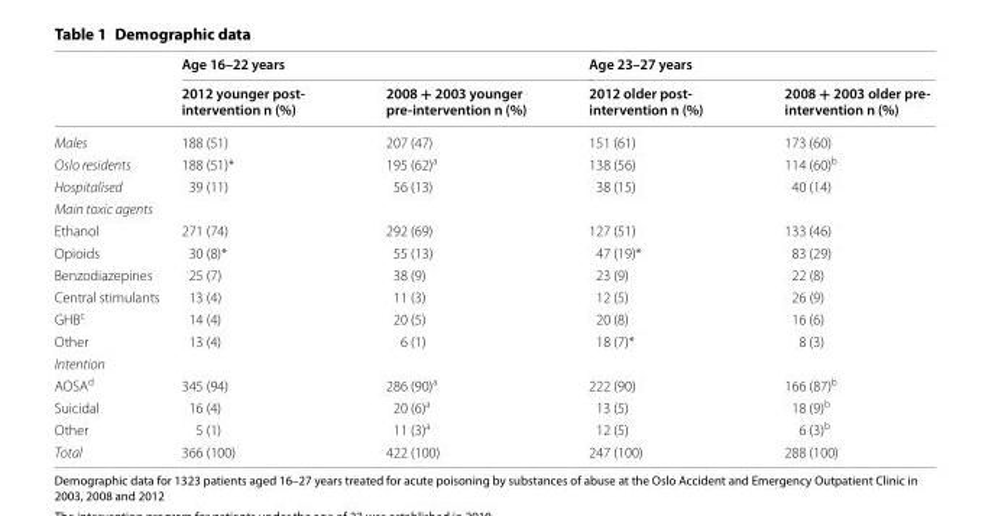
<table><thead><tr><td rowspan="2"></td><td colspan="2">Age 16–22 years</td><td colspan="2">Age 23–27 years</td></tr><tr><td>2012 younger post- intervention n (%)</td><td>2008 + 2003 younger pre-intervention n (%)</td><td>2012 older post- intervention n (%)</td><td>2008 + 2003 older pre- intervention n (%)</td></tr></thead><tbody><tr><td>Males</td><td>188 (51)</td><td>207 (47)</td><td>151 (61)</td><td>173 (60)</td></tr><tr><td>Oslo residents</td><td>188 (51)*</td><td>195 (62)<sup>a</sup></td><td>138 (56)</td><td>114 (60)<sup>b</sup></td></tr><tr><td>Hospitalised</td><td>39 (11)</td><td>56 (13)</td><td>38 (15)</td><td>40 (14)</td></tr><tr><td colspan="5">Main toxic agents</td></tr><tr><td>Ethanol</td><td>271 (74)</td><td>292 (69)</td><td>127 (51)</td><td>133 (46)</td></tr><tr><td>Opioids</td><td>30 (8)*</td><td>55 (13)</td><td>47 (19)*</td><td>83 (29)</td></tr><tr><td>Benzodiazepines</td><td>25 (7)</td><td>38 (9)</td><td>23 (9)</td><td>22 (8)</td></tr><tr><td>Central stimulants</td><td>13 (4)</td><td>11 (3)</td><td>12 (5)</td><td>26 (9)</td></tr><tr><td>GHB<sup>c</sup></td><td>14 (4)</td><td>20 (5)</td><td>20 (8)</td><td>16 (6)</td></tr><tr><td>Other</td><td>13 (4)</td><td>6 (1)</td><td>18 (7)*</td><td>8 (3)</td></tr><tr><td colspan="5">Intention</td></tr><tr><td>AOSA<sup>d</sup></td><td>345 (94)</td><td>286 (90)<sup>a</sup></td><td>222 (90)</td><td>166 (87)<sup>b</sup></td></tr><tr><td>Suicidal</td><td>16 (4)</td><td>20 (6)<sup>a</sup></td><td>13 (5)</td><td>18 (9)<sup>b</sup></td></tr><tr><td>Other</td><td>5 (1)</td><td>11 (3)<sup>a</sup></td><td>12 (5)</td><td>6 (3)<sup>b</sup></td></tr><tr><td>Total</td><td>366 (100)</td><td>422 (100)</td><td>247 (100)</td><td>288 (100)</td></tr></tbody></table>